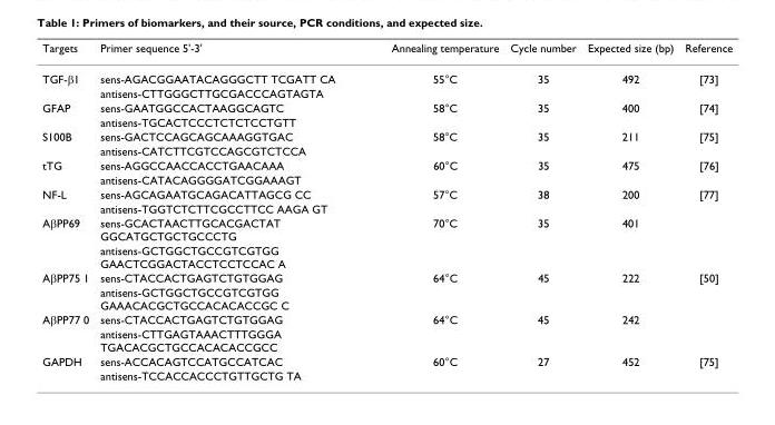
<table><thead><tr><td>Targets</td><td>Primer sequence 5&#x27;-3&#x27;</td><td>Annealing temperature</td><td>Cycle number</td><td>Expected size (bp)</td><td>Reference</td></tr></thead><tbody><tr><td rowspan="2">TGF-β1</td><td>sens-AGACGGAATACAGGGCTT TCGATT CA</td><td>55°C</td><td>35</td><td>492</td><td>[73]</td></tr><tr><td>antisens-CTTGGGCTTGCGACCCAGTAGTA</td><td></td><td></td><td></td><td></td></tr><tr><td rowspan="2">GFAP</td><td>sens-GAATGGCCACTAAGGCAGTC</td><td>58°C</td><td>35</td><td>400</td><td>[74]</td></tr><tr><td>antisens-TGCACTCCCTCTCTCCTGTT</td><td></td><td></td><td></td><td></td></tr><tr><td rowspan="2">S100B</td><td>sens-GACTCCAGCAGCAAAGGTGAC</td><td>58°C</td><td>35</td><td>211</td><td>[75]</td></tr><tr><td>antisens-CATCTTCGTCCAGCGTCTCCA</td><td></td><td></td><td></td><td></td></tr><tr><td rowspan="2">tTG</td><td>sens-AGGCCAACCACCTGAACAAA</td><td>60°C</td><td>35</td><td>475</td><td>[76]</td></tr><tr><td>antisens-CATACAGGGGATCGGAAAGT</td><td></td><td></td><td></td><td></td></tr><tr><td rowspan="2">NF-L</td><td>sens-AGCAGAATGCAGACATTAGCG CC</td><td>57°C</td><td>38</td><td>200</td><td>[77]</td></tr><tr><td>antisens-TGGTCTCTTCGCCTTCC AAGA GT</td><td></td><td></td><td></td><td></td></tr><tr><td rowspan="2">AβPP69</td><td>sens-GCACTAACTTGCACGACTAT GGCATGCTGCTGCCCTG</td><td>70°C</td><td>35</td><td>401</td><td></td></tr><tr><td>antisens-GCTGGCTGCCGTCGTGG GAACTCGGACTACCTCCTCCAC A</td><td></td><td></td><td></td><td></td></tr><tr><td rowspan="2">AβPP75 1</td><td>sens-CTACCACTGAGTCTGTGGAG</td><td>64°C</td><td>45</td><td>222</td><td>[50]</td></tr><tr><td>antisens-GCTGGCTGCCGTCGTGG GAAACACGCTGCCACACACCGC C</td><td></td><td></td><td></td><td></td></tr><tr><td rowspan="2">AβPP77 0</td><td>sens-CTACCACTGAGTCTGTGGAG</td><td>64°C</td><td>45</td><td>242</td><td></td></tr><tr><td>antisens-CTTGAGTAAACTTTGGGA TGACACGCTGCCACACACCGCC</td><td></td><td></td><td></td><td></td></tr><tr><td rowspan="2">GAPDH</td><td>sens-ACCACAGTCCATGCCATCAC</td><td>60°C</td><td>27</td><td>452</td><td>[75]</td></tr><tr><td>antisens-TCCACCACCCTGTTGCTG TA</td><td></td><td></td><td></td><td></td></tr></tbody></table>